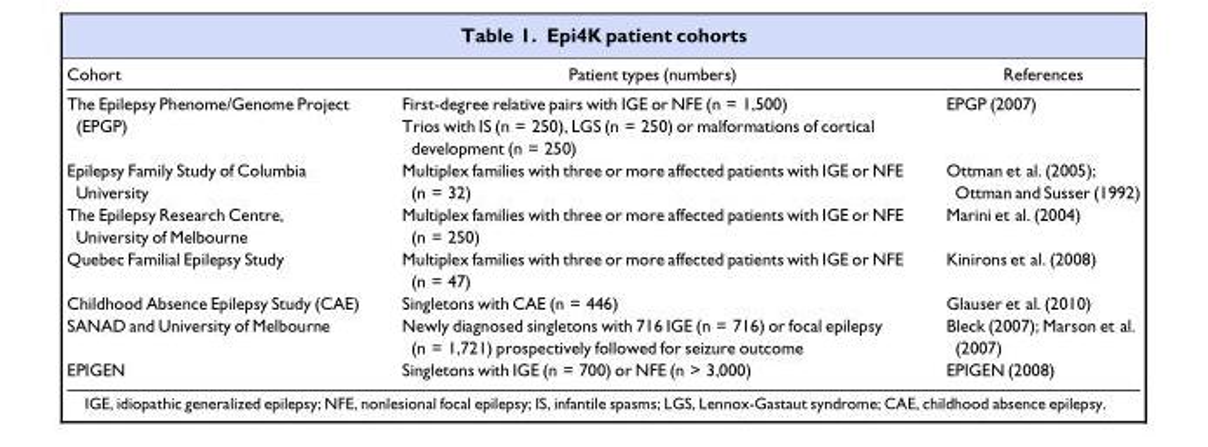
<table><thead><tr><td>Cohort</td><td>Patient types (numbers)</td><td>References</td></tr></thead><tbody><tr><td>The Epilepsy Phenome/Genome Project (EPGP)</td><td>First-degree relative pairs with IGE or NFE (n = 1,500) Trios with IS (n = 250), LGS (n = 250) or malformations of cortical development (n = 250)</td><td>EPGP (2007)</td></tr><tr><td>Epilepsy Family Study of Columbia University</td><td>Multiplex families with three or more affected patients with IGE or NFE (n = 32)</td><td>Ottman et al. (2005); Ottman and Susser (1992)</td></tr><tr><td>The Epilepsy Research Centre, University of Melbourne</td><td>Multiplex families with three or more affected patients with IGE or NFE (n = 250)</td><td>Marini et al. (2004)</td></tr><tr><td>Quebec Familial Epilepsy Study</td><td>Multiplex families with three or more affected patients with IGE or NFE (n = 47)</td><td>Kinirons et al. (2008)</td></tr><tr><td>Childhood Absence Epilepsy Study (CAE)</td><td>Singletons with CAE (n = 446)</td><td>Glauser et al. (2010)</td></tr><tr><td>SANAD and University of Melbourne</td><td>Newly diagnosed singletons with 716 IGE (n = 716) or focal epilepsy (n = 1,721) prospectively followed for seizure outcome</td><td>Bleck (2007); Marson et al. (2007)</td></tr><tr><td>EPIGEN</td><td>Singletons with IGE (n = 700) or NFE (n &gt; 3,000)</td><td>EPIGEN (2008)</td></tr></tbody></table>